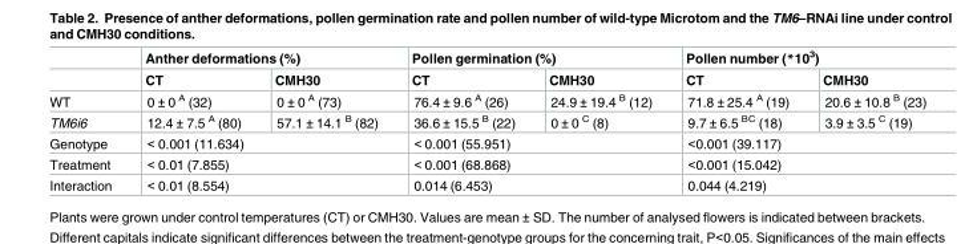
<table><thead><tr><td rowspan="2"></td><td colspan="2">Anther deformations (%)</td><td colspan="2">Pollen germination (%)</td><td colspan="2">Pollen number (*10<sup>3</sup>)</td></tr><tr><td>CT</td><td>CMH30</td><td>CT</td><td>CMH30</td><td>CT</td><td>CMH30</td></tr></thead><tbody><tr><td>WT</td><td>0 ± 0 <sup>A</sup> (32)</td><td>0 ± 0 <sup>A</sup> (73)</td><td>76.4 ± 9.6 <sup>A</sup> (26)</td><td>24.9 ± 19.4 <sup>B</sup> (12)</td><td>71.8 ± 25.4 <sup>A</sup> (19)</td><td>20.6 ± 10.8 <sup>B</sup> (23)</td></tr><tr><td>TM6i6</td><td>12.4 ± 7.5 <sup>A</sup> (80)</td><td>57.1 ± 14.1 <sup>B</sup> (82)</td><td>36.6 ± 15.5 <sup>B</sup> (22)</td><td>0 ± 0 <sup>C</sup> (8)</td><td>9.7 ± 6.5 <sup>BC</sup> (18)</td><td>3.9 ± 3.5 <sup>C</sup> (19)</td></tr><tr><td>Genotype</td><td colspan="2">&lt; 0.001 (11.634)</td><td colspan="2">&lt; 0.001 (55.951)</td><td colspan="2">&lt;0.001 (39.117)</td></tr><tr><td>Treatment</td><td colspan="2">&lt; 0.01 (7.855)</td><td colspan="2">&lt; 0.001 (68.868)</td><td colspan="2">&lt;0.001 (15.042)</td></tr><tr><td>Interaction</td><td colspan="2">&lt; 0.01 (8.554)</td><td colspan="2">0.014 (6.453)</td><td colspan="2">0.044 (4.219)</td></tr></tbody></table>